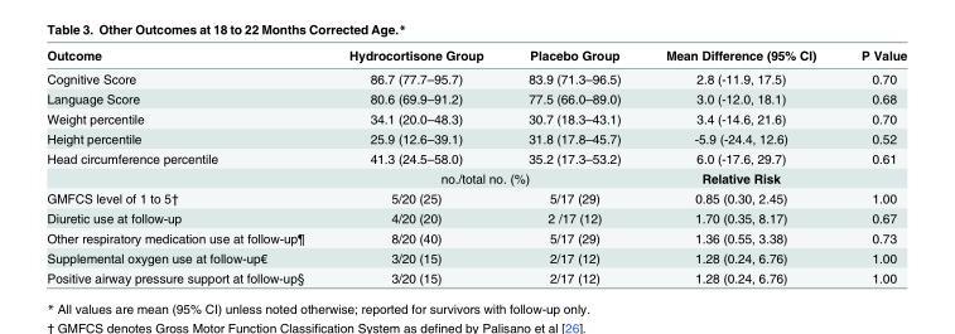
<table><thead><tr><td>Outcome</td><td>Hydrocortisone Group</td><td>Placebo Group</td><td>Mean Difference (95% CI)</td><td>P Value</td></tr></thead><tbody><tr><td>Cognitive Score</td><td>86.7 (77.7–95.7)</td><td>83.9 (71.3–96.5)</td><td>2.8 (-11.9, 17.5)</td><td>0.70</td></tr><tr><td>Language Score</td><td>80.6 (69.9–91.2)</td><td>77.5 (66.0–89.0)</td><td>3.0 (-12.0, 18.1)</td><td>0.68</td></tr><tr><td>Weight percentile</td><td>34.1 (20.0–48.3)</td><td>30.7 (18.3–43.1)</td><td>3.4 (-14.6, 21.6)</td><td>0.70</td></tr><tr><td>Height percentile</td><td>25.9 (12.6–39.1)</td><td>31.8 (17.8–45.7)</td><td>-5.9 (-24.4, 12.6)</td><td>0.52</td></tr><tr><td rowspan="2">Head circumference percentile</td><td>41.3 (24.5–58.0)</td><td>35.2 (17.3–53.2)</td><td>6.0 (-17.6, 29.7)</td><td>0.61</td></tr><tr><td colspan="2">no./total no. (%)</td><td>Relative Risk</td><td></td></tr><tr><td>GMFCS level of 1 to 5†</td><td>5/20 (25)</td><td>5/17 (29)</td><td>0.85 (0.30, 2.45)</td><td>1.00</td></tr><tr><td>Diuretic use at follow-up</td><td>4/20 (20)</td><td>2 /17 (12)</td><td>1.70 (0.35, 8.17)</td><td>0.67</td></tr><tr><td>Other respiratory medication use at follow-up¶</td><td>8/20 (40)</td><td>5/17 (29)</td><td>1.36 (0.55, 3.38)</td><td>0.73</td></tr><tr><td>Supplemental oxygen use at follow-up€</td><td>3/20 (15)</td><td>2/17 (12)</td><td>1.28 (0.24, 6.76)</td><td>1.00</td></tr><tr><td>Positive airway pressure support at follow-up§</td><td>3/20 (15)</td><td>2/17 (12)</td><td>1.28 (0.24, 6.76)</td><td>1.00</td></tr></tbody></table>